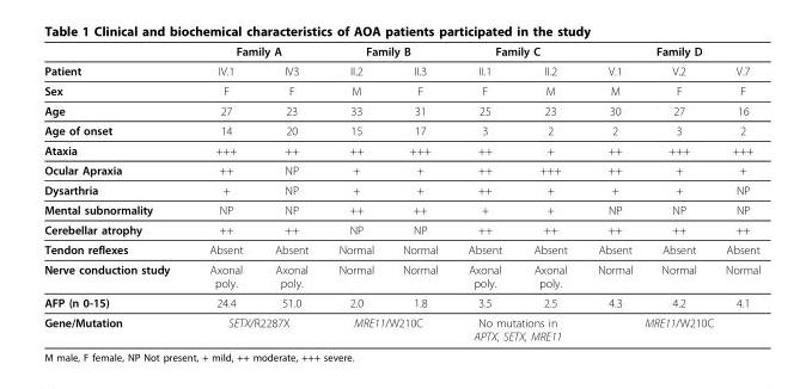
<table><thead><tr><td rowspan="2">Patient</td><td colspan="2">Family A</td><td colspan="2">Family B</td><td colspan="2">Family C</td><td colspan="3">Family D</td></tr><tr><td>IV.1</td><td>IV3</td><td>II.2</td><td>II.3</td><td>II.1</td><td>II.2</td><td>V.1</td><td>V.2</td><td>V.7</td></tr></thead><tbody><tr><td>Sex</td><td>F</td><td>F</td><td>M</td><td>F</td><td>F</td><td>M</td><td>M</td><td>F</td><td>F</td></tr><tr><td>Age</td><td>27</td><td>23</td><td>33</td><td>31</td><td>25</td><td>23</td><td>30</td><td>27</td><td>16</td></tr><tr><td>Age of onset</td><td>14</td><td>20</td><td>15</td><td>17</td><td>3</td><td>2</td><td>2</td><td>3</td><td>2</td></tr><tr><td>Ataxia</td><td>+++</td><td>++</td><td>++</td><td>+++</td><td>++</td><td>+</td><td>++</td><td>+++</td><td>+++</td></tr><tr><td>Ocular Apraxia</td><td>++</td><td>NP</td><td>+</td><td>+</td><td>++</td><td>+++</td><td>++</td><td>+</td><td>+</td></tr><tr><td>Dysarthria</td><td>+</td><td>NP</td><td>+</td><td>+</td><td>++</td><td>+</td><td>+</td><td>+</td><td>NP</td></tr><tr><td>Mental subnormality</td><td>NP</td><td>NP</td><td>++</td><td>++</td><td>+</td><td>+</td><td>NP</td><td>NP</td><td>NP</td></tr><tr><td>Cerebellar atrophy</td><td>++</td><td>++</td><td>NP</td><td>NP</td><td>++</td><td>++</td><td>++</td><td>++</td><td>++</td></tr><tr><td>Tendon reflexes</td><td>Absent</td><td>Absent</td><td>Normal</td><td>Normal</td><td>Absent</td><td>Absent</td><td>Absent</td><td>Absent</td><td>Absent</td></tr><tr><td>Nerve conduction study</td><td>Axonal poly.</td><td>Axonal poly.</td><td>Normal</td><td>Normal</td><td>Axonal poly.</td><td>Axonal poly.</td><td>Normal</td><td>Normal</td><td>Normal</td></tr><tr><td>AFP (n 0-15)</td><td>24.4</td><td>51.0</td><td>2.0</td><td>1.8</td><td>3.5</td><td>2.5</td><td>4.3</td><td>4.2</td><td>4.1</td></tr><tr><td>Gene/Mutation</td><td colspan="2">SETX/R2287X</td><td colspan="2">MRE11/W210C</td><td colspan="2">No mutations in APTX, SETX, MRE11</td><td colspan="3">MRE11/W210C</td></tr></tbody></table>